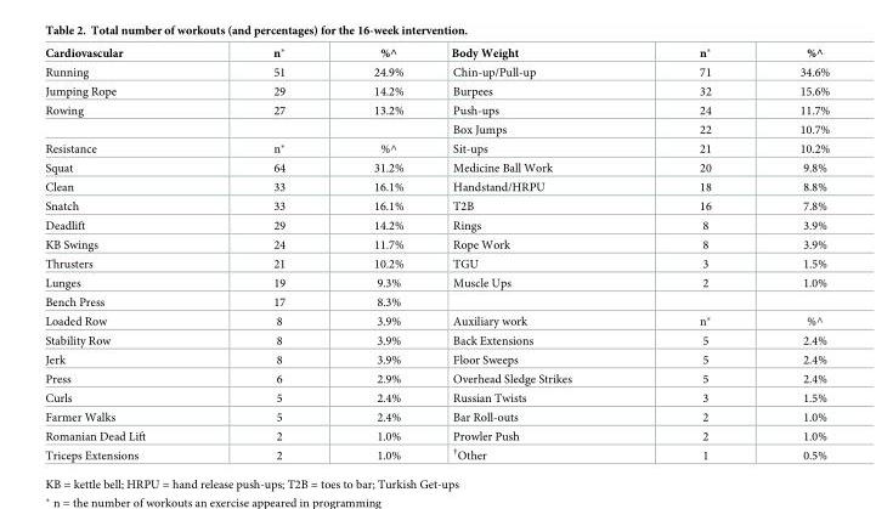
<table><thead><tr><td>Cardiovascular</td><td>n*</td><td>%^</td><td>Body Weight</td><td>n*</td><td>%^</td></tr></thead><tbody><tr><td>Running</td><td>51</td><td>24.9%</td><td>Chin-up/Pull-up</td><td>71</td><td>34.6%</td></tr><tr><td>Jumping Rope</td><td>29</td><td>14.2%</td><td>Burpees</td><td>32</td><td>15.6%</td></tr><tr><td rowspan="2">Rowing</td><td>27</td><td>13.2%</td><td>Push-ups</td><td>24</td><td>11.7%</td></tr><tr><td></td><td></td><td>Box Jumps</td><td>22</td><td>10.7%</td></tr><tr><td>Resistance</td><td>n*</td><td>%^</td><td>Sit-ups</td><td>21</td><td>10.2%</td></tr><tr><td>Squat</td><td>64</td><td>31.2%</td><td>Medicine Ball Work</td><td>20</td><td>9.8%</td></tr><tr><td>Clean</td><td>33</td><td>16.1%</td><td>Handstand/HRPU</td><td>18</td><td>8.8%</td></tr><tr><td>Snatch</td><td>33</td><td>16.1%</td><td>T2B</td><td>16</td><td>7.8%</td></tr><tr><td>Deadlift</td><td>29</td><td>14.2%</td><td>Rings</td><td>8</td><td>3.9%</td></tr><tr><td>KB Swings</td><td>24</td><td>11.7%</td><td>Rope Work</td><td>8</td><td>3.9%</td></tr><tr><td>Thrusters</td><td>21</td><td>10.2%</td><td>TGU</td><td>3</td><td>1.5%</td></tr><tr><td>Lunges</td><td>19</td><td>9.3%</td><td>Muscle Ups</td><td>2</td><td>1.0%</td></tr><tr><td>Bench Press</td><td>17</td><td>8.3%</td><td></td><td></td><td></td></tr><tr><td>Loaded Row</td><td>8</td><td>3.9%</td><td>Auxiliary work</td><td>n*</td><td>%^</td></tr><tr><td>Stability Row</td><td>8</td><td>3.9%</td><td>Back Extensions</td><td>5</td><td>2.4%</td></tr><tr><td>Jerk</td><td>8</td><td>3.9%</td><td>Floor Sweeps</td><td>5</td><td>2.4%</td></tr><tr><td>Press</td><td>6</td><td>2.9%</td><td>Overhead Sledge Strikes</td><td>5</td><td>2.4%</td></tr><tr><td>Curls</td><td>5</td><td>2.4%</td><td>Russian Twists</td><td>3</td><td>1.5%</td></tr><tr><td>Farmer Walks</td><td>5</td><td>2.4%</td><td>Bar Roll-outs</td><td>2</td><td>1.0%</td></tr><tr><td>Romanian Dead Lift</td><td>2</td><td>1.0%</td><td>Prowler Push</td><td>2</td><td>1.0%</td></tr><tr><td>Triceps Extensions</td><td>2</td><td>1.0%</td><td><sup>†</sup>Other</td><td>1</td><td>0.5%</td></tr></tbody></table>